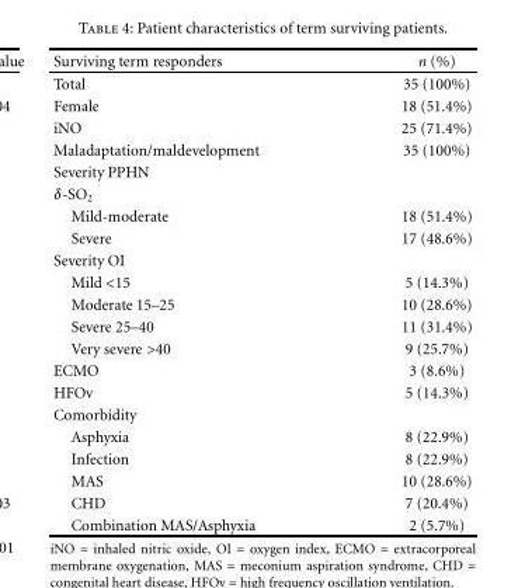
<table><thead><tr><td>Surviving term responders</td><td>n (%)</td></tr></thead><tbody><tr><td>Total</td><td>35 (100%)</td></tr><tr><td>Female</td><td>18 (51.4%)</td></tr><tr><td>iNO</td><td>25 (71.4%)</td></tr><tr><td>Maladaptation/maldevelopment</td><td>35 (100%)</td></tr><tr><td colspan="2">Severity PPHN</td></tr><tr><td colspan="2">δ-SO<sub>2</sub></td></tr><tr><td>Mild-moderate</td><td>18 (51.4%)</td></tr><tr><td>Severe</td><td>17 (48.6%)</td></tr><tr><td colspan="2">Severity OI</td></tr><tr><td>Mild &lt;15</td><td>5 (14.3%)</td></tr><tr><td>Moderate 15–25</td><td>10 (28.6%)</td></tr><tr><td>Severe 25–40</td><td>11 (31.4%)</td></tr><tr><td>Very severe &gt;40</td><td>9 (25.7%)</td></tr><tr><td>ECMO</td><td>3 (8.6%)</td></tr><tr><td>HFOv</td><td>5 (14.3%)</td></tr><tr><td colspan="2">Comorbidity</td></tr><tr><td>Asphyxia</td><td>8 (22.9%)</td></tr><tr><td>Infection</td><td>8 (22.9%)</td></tr><tr><td>MAS</td><td>10 (28.6%)</td></tr><tr><td>CHD</td><td>7 (20.4%)</td></tr><tr><td>Combination MAS/Asphyxia</td><td>2 (5.7%)</td></tr></tbody></table>